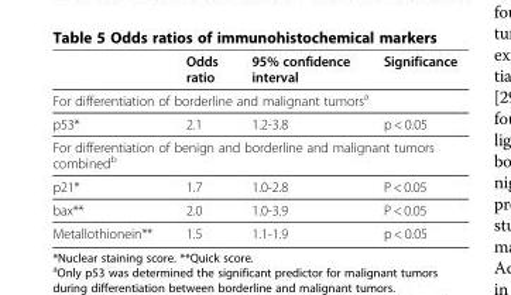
<table><thead><tr><td></td><td>Odds ratio</td><td>95% confidence interval</td><td>Significance</td></tr></thead><tbody><tr><td colspan="4">For differentiation of borderline and malignant tumors<sup>a</sup></td></tr><tr><td>p53*</td><td>2.1</td><td>1.2-3.8</td><td>p &lt; 0.05</td></tr><tr><td colspan="4">For differentiation of benign and borderline and malignant tumors combined<sup>b</sup></td></tr><tr><td>p21*</td><td>1.7</td><td>1.0-2.8</td><td>P &lt; 0.05</td></tr><tr><td>bax**</td><td>2.0</td><td>1.0-3.9</td><td>P &lt; 0.05</td></tr><tr><td>Metallothionein**</td><td>1.5</td><td>1.1-1.9</td><td>p &lt; 0.05</td></tr></tbody></table>